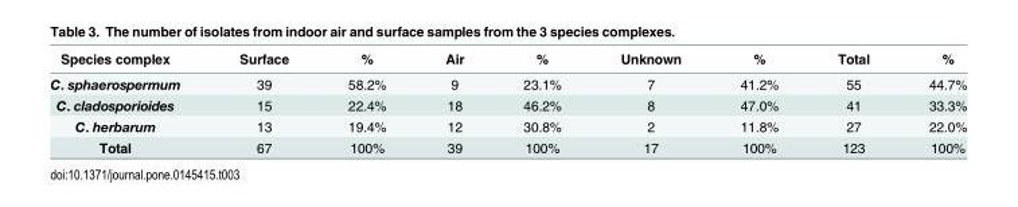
<table><thead><tr><td>Species complex</td><td>Surface</td><td>%</td><td>Air</td><td>%</td><td>Unknown</td><td>%</td><td>Total</td><td>%</td></tr></thead><tbody><tr><td>C. sphaerospermum</td><td>39</td><td>58.2%</td><td>9</td><td>23.1%</td><td>7</td><td>41.2%</td><td>55</td><td>44.7%</td></tr><tr><td>C. cladosporioides</td><td>15</td><td>22.4%</td><td>18</td><td>46.2%</td><td>8</td><td>47.0%</td><td>41</td><td>33.3%</td></tr><tr><td>C. herbarum</td><td>13</td><td>19.4%</td><td>12</td><td>30.8%</td><td>2</td><td>11.8%</td><td>27</td><td>22.0%</td></tr><tr><td>Total</td><td>67</td><td>100%</td><td>39</td><td>100%</td><td>17</td><td>100%</td><td>123</td><td>100%</td></tr></tbody></table>